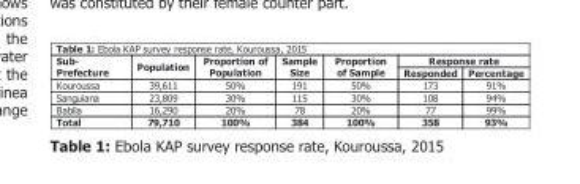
<table><thead><tr><td rowspan="2">Sub Prefecture</td><td rowspan="2">Population</td><td rowspan="2">Proportion of Population</td><td rowspan="2">Sample Size</td><td rowspan="2">Proportion of Sample</td><td colspan="2">Response rate</td></tr><tr><td>Responded</td><td>Percentage</td></tr></thead><tbody><tr><td>Kouroussa</td><td>39,611</td><td>50%</td><td>191</td><td>50%</td><td>173</td><td>91%</td></tr><tr><td>Sanguiana</td><td>23,809</td><td>30%</td><td>115</td><td>30%</td><td>108</td><td>94%</td></tr><tr><td>Babila</td><td>16,290</td><td>20%</td><td>78</td><td>20%</td><td>77</td><td>99%</td></tr><tr><td>Total</td><td>79,710</td><td>100%</td><td>384</td><td>100%</td><td>358</td><td>93%</td></tr></tbody></table>